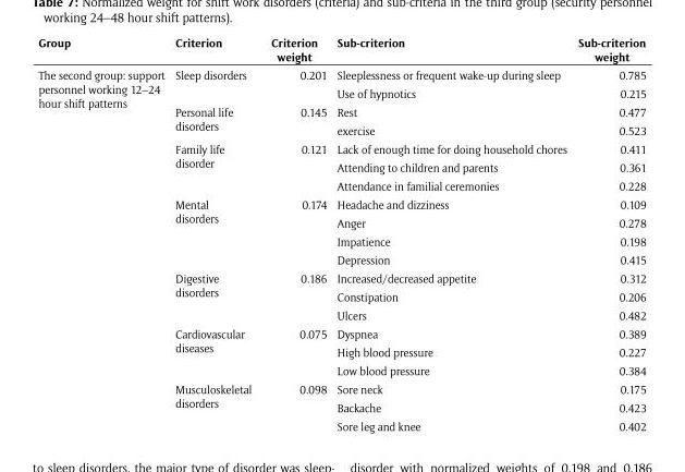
<table><thead><tr><td>Group</td><td>Criterion</td><td>Criterion weight</td><td>Sub-criterion</td><td>Sub-criterion weight</td></tr></thead><tbody><tr><td rowspan="20">The second group: support personnel working 12–24 hour shift patterns</td><td rowspan="2">Sleep disorders</td><td rowspan="2">0.201</td><td>Sleeplessness or frequent wake-up during sleep</td><td>0.785</td></tr><tr><td>Use of hypnotics</td><td>0.215</td></tr><tr><td rowspan="2">Personal life disorders</td><td rowspan="2">0.145</td><td>Rest</td><td>0.477</td></tr><tr><td>exercise</td><td>0.523</td></tr><tr><td rowspan="3">Family life disorder</td><td rowspan="3">0.121</td><td>Lack of enough time for doing household chores</td><td>0.411</td></tr><tr><td>Attending to children and parents</td><td>0.361</td></tr><tr><td>Attendance in familial ceremonies</td><td>0.228</td></tr><tr><td rowspan="4">Mental disorders</td><td rowspan="4">0.174</td><td>Headache and dizziness</td><td>0.109</td></tr><tr><td>Anger</td><td>0.278</td></tr><tr><td>Impatience</td><td>0.198</td></tr><tr><td>Depression</td><td>0.415</td></tr><tr><td rowspan="3">Digestive disorders</td><td rowspan="3">0.186</td><td>Increased/decreased appetite</td><td>0.312</td></tr><tr><td>Constipation</td><td>0.206</td></tr><tr><td>Ulcers</td><td>0.482</td></tr><tr><td rowspan="3">Cardiovascular diseases</td><td rowspan="3">0.075</td><td>Dyspnea</td><td>0.389</td></tr><tr><td>High blood pressure</td><td>0.227</td></tr><tr><td>Low blood pressure</td><td>0.384</td></tr><tr><td rowspan="3">Musculoskeletal disorders</td><td rowspan="3">0.098</td><td>Sore neck</td><td>0.175</td></tr><tr><td>Backache</td><td>0.423</td></tr><tr><td>Sore leg and knee</td><td>0.402</td></tr></tbody></table>